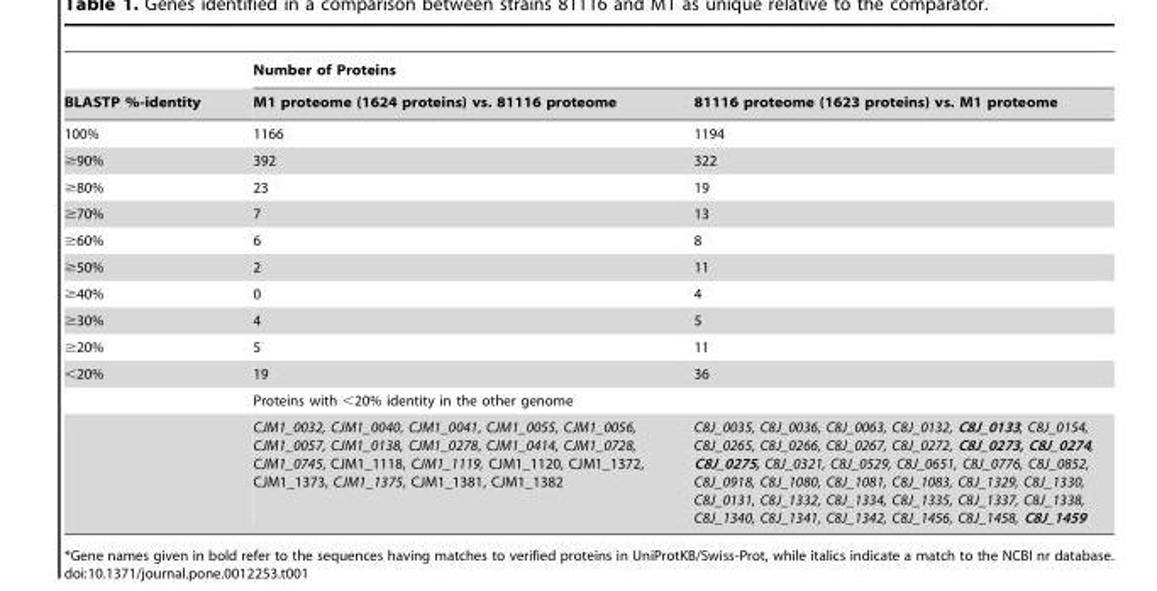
<table><thead><tr><td rowspan="2">BLASTP %-identity</td><td colspan="2">Number of Proteins</td></tr><tr><td>M1 proteome (1624 proteins) vs. 81116 proteome</td><td>81116 proteome (1623 proteins) vs. M1 proteome</td></tr></thead><tbody><tr><td>100%</td><td>1166</td><td>1194</td></tr><tr><td>≥90%</td><td>392</td><td>322</td></tr><tr><td>≥80%</td><td>23</td><td>19</td></tr><tr><td>≥70%</td><td>7</td><td>13</td></tr><tr><td>≥60%</td><td>6</td><td>8</td></tr><tr><td>≥50%</td><td>2</td><td>11</td></tr><tr><td>≥40%</td><td>0</td><td>4</td></tr><tr><td>≥30%</td><td>4</td><td>5</td></tr><tr><td>≥20%</td><td>5</td><td>11</td></tr><tr><td rowspan="3">&lt;20%</td><td>19</td><td>36</td></tr><tr><td colspan="2">Proteins with &lt;20% identity in the other genome</td></tr><tr><td>CJM1_0032, CJM1_0040, CJM1_0041, CJM1_0055, CJM1_0056, CJM1_0057, CJM1_0138, CJM1_0278, CJM1_0414, CJM1_0728, CJM1_0745, CJM1_1118, CJM1_1119, CJM1_1120, CJM1_1372, CJM1_1373, CJM1_1375, CJM1_1381, CJM1_1382</td><td>C8J_0035, C8J_0036, C8J_0063, C8J_0132, C8J_0133, C8J_0154, C8J_0265, C8J_0266, C8J_0267, C8J_0272, C8J_0273, C8J_0274, C8J_0275, C8J_0321, C8J_0529, C8J_0651, C8J_0776, C8J_0852, C8J_0918, C8J_1080, C8J_1081, C8J_1083, C8J_1329, C8J_1330, C8J_0131, C8J_1332, C8J_1334, C8J_1335, C8J_1337, C8J_1338, C8J_1340, C8J_1341, C8J_1342, C8J_1456, C8J_1458, C8J_1459</td></tr></tbody></table>